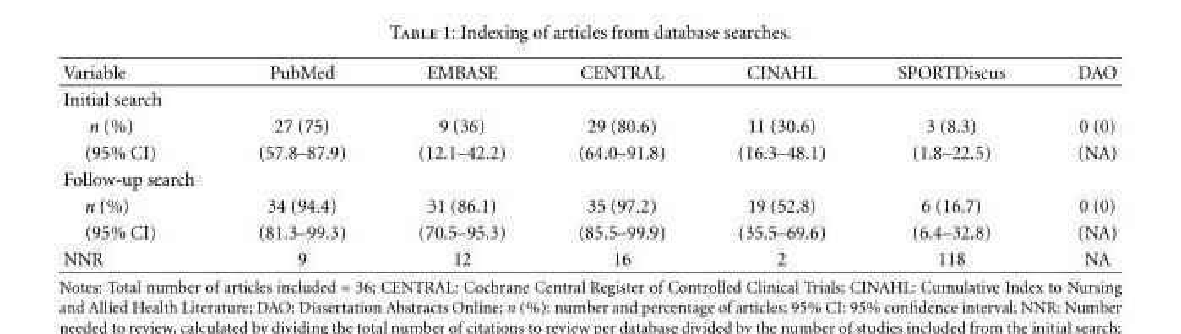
<table><thead><tr><td>Variable</td><td>PubMed</td><td>EMBASE</td><td>CENTRAL</td><td>CINAHL</td><td>SPORTDiscus</td><td>DAO</td></tr></thead><tbody><tr><td colspan="7">Initial search</td></tr><tr><td>n (%)</td><td>27 (75)</td><td>9 (36)</td><td>29 (80.6)</td><td>11 (30.6)</td><td>3 (8.3)</td><td>0 (0)</td></tr><tr><td>(95% CI)</td><td>(57.8–87.9)</td><td>(12.1–42.2)</td><td>(64.0–91.8)</td><td>(16.3–48.1)</td><td>(1.8–22.5)</td><td>(NA)</td></tr><tr><td colspan="7">Follow-up search</td></tr><tr><td>n (%)</td><td>34 (94.4)</td><td>31 (86.1)</td><td>35 (97.2)</td><td>19 (52.8)</td><td>6 (16.7)</td><td>0 (0)</td></tr><tr><td>(95% CI)</td><td>(81.3–99.3)</td><td>(70.5–95.3)</td><td>(85.5–99.9)</td><td>(35.5–69.6)</td><td>(6.4–32.8)</td><td>(NA)</td></tr><tr><td>NNR</td><td>9</td><td>12</td><td>16</td><td>2</td><td>118</td><td>NA</td></tr></tbody></table>